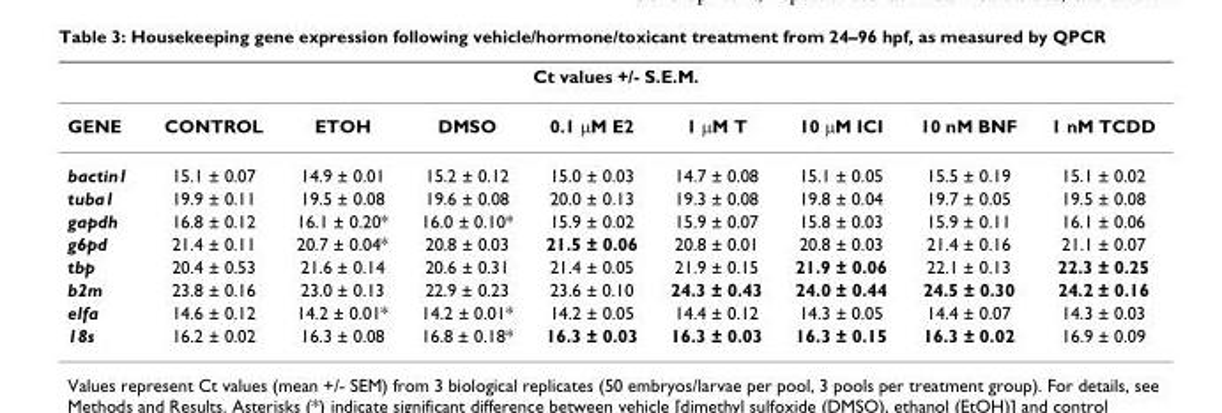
<table><thead><tr><td colspan="9">Ct values +/- S.E.M.</td></tr><tr><td>GENE</td><td>CONTROL</td><td>ETOH</td><td>DMSO</td><td>0.1 μM E2</td><td>1 μM T</td><td>10 μM ICI</td><td>10 nM BNF</td><td>1 nM TCDD</td></tr></thead><tbody><tr><td>bactin1</td><td>15.1 ± 0.07</td><td>14.9 ± 0.01</td><td>15.2 ± 0.12</td><td>15.0 ± 0.03</td><td>14.7 ± 0.08</td><td>15.1 ± 0.05</td><td>15.5 ± 0.19</td><td>15.1 ± 0.02</td></tr><tr><td>tuba1</td><td>19.9 ± 0.11</td><td>19.5 ± 0.08</td><td>19.6 ± 0.08</td><td>20.0 ± 0.13</td><td>19.3 ± 0.08</td><td>19.8 ± 0.04</td><td>19.7 ± 0.05</td><td>19.5 ± 0.08</td></tr><tr><td>gapdh</td><td>16.8 ± 0.12</td><td>16.1 ± 0.20*</td><td>16.0 ± 0.10*</td><td>15.9 ± 0.02</td><td>15.9 ± 0.07</td><td>15.8 ± 0.03</td><td>15.9 ± 0.11</td><td>16.1 ± 0.06</td></tr><tr><td>g6pd</td><td>21.4 ± 0.11</td><td>20.7 ± 0.04*</td><td>20.8 ± 0.03</td><td>21.5 ± 0.06</td><td>20.8 ± 0.01</td><td>20.8 ± 0.03</td><td>21.4 ± 0.16</td><td>21.1 ± 0.07</td></tr><tr><td>tbp</td><td>20.4 ± 0.53</td><td>21.6 ± 0.14</td><td>20.6 ± 0.31</td><td>21.4 ± 0.05</td><td>21.9 ± 0.15</td><td>21.9 ± 0.06</td><td>22.1 ± 0.13</td><td>22.3 ± 0.25</td></tr><tr><td>b2m</td><td>23.8 ± 0.16</td><td>23.0 ± 0.13</td><td>22.9 ± 0.23</td><td>23.6 ± 0.10</td><td>24.3 ± 0.43</td><td>24.0 ± 0.44</td><td>24.5 ± 0.30</td><td>24.2 ± 0.16</td></tr><tr><td>elfa</td><td>14.6 ± 0.12</td><td>14.2 ± 0.01*</td><td>14.2 ± 0.01*</td><td>14.2 ± 0.05</td><td>14.4 ± 0.12</td><td>14.3 ± 0.05</td><td>14.4 ± 0.07</td><td>14.3 ± 0.03</td></tr><tr><td>18s</td><td>16.2 ± 0.02</td><td>16.3 ± 0.08</td><td>16.8 ± 0.18*</td><td>16.3 ± 0.03</td><td>16.3 ± 0.03</td><td>16.3 ± 0.15</td><td>16.3 ± 0.02</td><td>16.9 ± 0.09</td></tr></tbody></table>